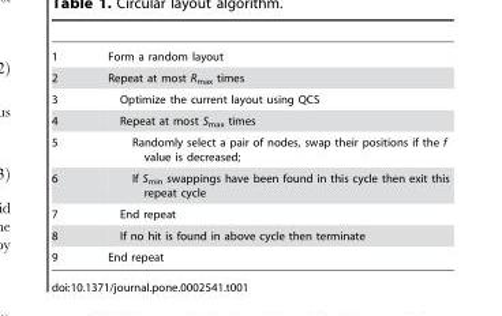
<table><tbody><tr><td>1</td><td>Form a random layout</td></tr><tr><td>2</td><td>Repeat at most R<sub>max</sub> times</td></tr><tr><td>3</td><td>Optimize the current layout using QCS</td></tr><tr><td>4</td><td>Repeat at most S<sub>max</sub> times</td></tr><tr><td>5</td><td>Randomly select a pair of nodes, swap their positions if the f value is decreased;</td></tr><tr><td>6</td><td>If S<sub>min</sub> swappings have been found in this cycle then exit this repeat cycle</td></tr><tr><td>7</td><td>End repeat</td></tr><tr><td>8</td><td>If no hit is found in above cycle then terminate</td></tr><tr><td>9</td><td>End repeat</td></tr></tbody></table>